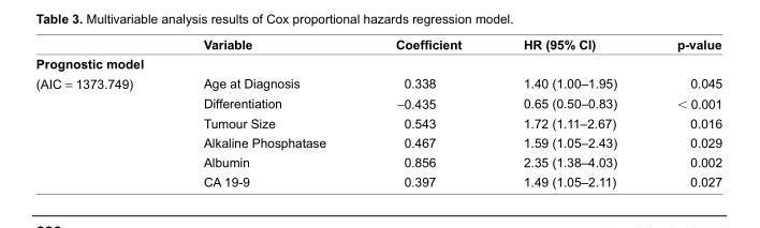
<table><thead><tr><td></td><td>Variable</td><td>Coefficient</td><td>HR (95% cI)</td><td>p-value</td></tr></thead><tbody><tr><td rowspan="6">prognostic model (AIC = 1373.749)</td><td>Age at Diagnosis</td><td>0.338</td><td>1.40 (1.00–1.95)</td><td>0.045</td></tr><tr><td>Differentiation</td><td>−0.435</td><td>0.65 (0.50–0.83)</td><td>&lt; 0.001</td></tr><tr><td>Tumour size</td><td>0.543</td><td>1.72 (1.11–2.67)</td><td>0.016</td></tr><tr><td>Alkaline Phosphatase</td><td>0.467</td><td>1.59 (1.05–2.43)</td><td>0.029</td></tr><tr><td>Albumin</td><td>0.856</td><td>2.35 (1.38–4.03)</td><td>0.002</td></tr><tr><td>CA 19-9</td><td>0.397</td><td>1.49 (1.05–2.11)</td><td>0.027</td></tr></tbody></table>